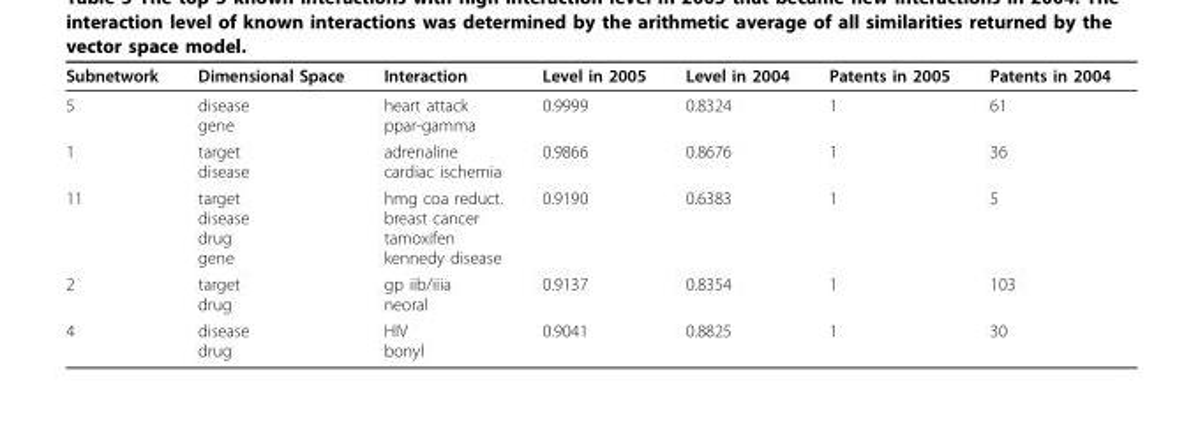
<table><thead><tr><td>Subnetwork</td><td>Dimensional Space</td><td>Interaction</td><td>Level in 2005</td><td>Level in 2004</td><td>Patents in 2005</td><td>Patents in 2004</td></tr></thead><tbody><tr><td>5</td><td>disease gene</td><td>heart attack ppar-gamma</td><td>0.9999</td><td>0.8324</td><td>1</td><td>61</td></tr><tr><td>1</td><td>target disease</td><td>adrenaline cardiac ischemia</td><td>0.9866</td><td>0.8676</td><td>1</td><td>36</td></tr><tr><td>11</td><td>target disease drug gene</td><td>hmg coa reduct. breast cancer tamoxifen kennedy disease</td><td>0.9190</td><td>0.6383</td><td>1</td><td>5</td></tr><tr><td>2</td><td>target drug</td><td>gp iib/iiia neoral</td><td>0.9137</td><td>0.8354</td><td>1</td><td>103</td></tr><tr><td>4</td><td>disease drug</td><td>HIV bonyl</td><td>0.9041</td><td>0.8825</td><td>1</td><td>30</td></tr></tbody></table>